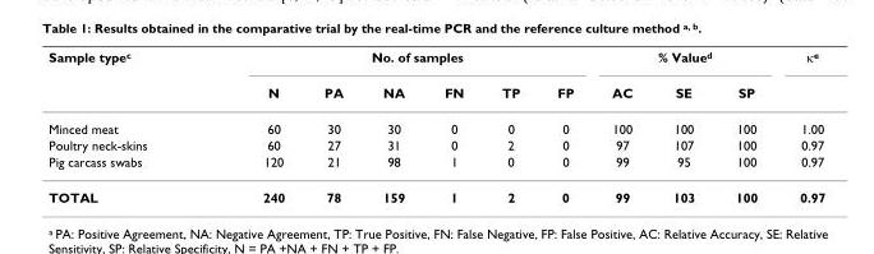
<table><thead><tr><td rowspan="2">Sample type<sup>c</sup></td><td colspan="6">No. of samples</td><td colspan="3">% Value<sup>d</sup></td><td rowspan="2">κ<sup>e</sup></td></tr><tr><td>N</td><td>PA</td><td>NA</td><td>FN</td><td>TP</td><td>FP</td><td>AC</td><td>SE</td><td>SP</td></tr></thead><tbody><tr><td>Minced meat</td><td>60</td><td>30</td><td>30</td><td>0</td><td>0</td><td>0</td><td>100</td><td>100</td><td>100</td><td>1.00</td></tr><tr><td>Poultry neck-skins</td><td>60</td><td>27</td><td>31</td><td>0</td><td>2</td><td>0</td><td>97</td><td>107</td><td>100</td><td>0.97</td></tr><tr><td>Pig carcass swabs</td><td>120</td><td>21</td><td>98</td><td>1</td><td>0</td><td>0</td><td>99</td><td>95</td><td>100</td><td>0.97</td></tr><tr><td>TOTAL</td><td>240</td><td>78</td><td>159</td><td>1</td><td>2</td><td>0</td><td>99</td><td>103</td><td>100</td><td>0.97</td></tr></tbody></table>